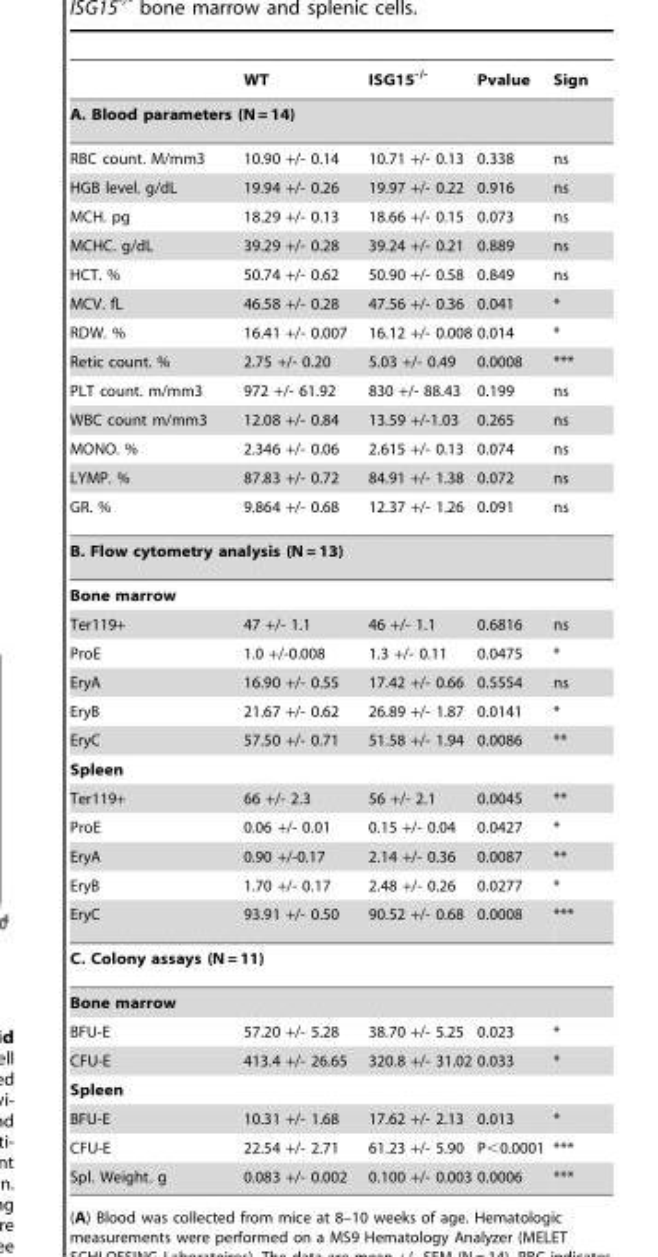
<table><thead><tr><td></td><td>WT</td><td>ISG15<sup>-/-</sup></td><td>Pvalue</td><td>Sign</td></tr></thead><tbody><tr><td colspan="5">A. Blood parameters (N = 14)</td></tr><tr><td>RBC count. M/mm3</td><td>10.90 +/- 0.14</td><td>10.71 +/- 0.13</td><td>0.338</td><td>ns</td></tr><tr><td>HGB level. g/dL</td><td>19.94 +/- 0.26</td><td>19.97 +/- 0.22</td><td>0.916</td><td>ns</td></tr><tr><td>MCH. pg</td><td>18.29 +/- 0.13</td><td>18.66 +/- 0.15</td><td>0.073</td><td>ns</td></tr><tr><td>MCHC. g/dL</td><td>39.29 +/- 0.28</td><td>39.24 +/- 0.21</td><td>0.889</td><td>ns</td></tr><tr><td>HCT. %</td><td>50.74 +/- 0.62</td><td>50.90 +/- 0.58</td><td>0.849</td><td>ns</td></tr><tr><td>MCV. fL</td><td>46.58 +/- 0.28</td><td>47.56 +/- 0.36</td><td>0.041</td><td>*</td></tr><tr><td>RDW. %</td><td>16.41 +/- 0.007</td><td>16.12 +/- 0.008</td><td>0.014</td><td>*</td></tr><tr><td>Retic count. %</td><td>2.75 +/- 0.20</td><td>5.03 +/- 0.49</td><td>0.0008</td><td>***</td></tr><tr><td>PLT count. m/mm3</td><td>972 +/- 61.92</td><td>830 +/- 88.43</td><td>0.199</td><td>ns</td></tr><tr><td>WBC count m/mm3</td><td>12.08 +/- 0.84</td><td>13.59 +/-1.03</td><td>0.265</td><td>ns</td></tr><tr><td>MONO. %</td><td>2.346 +/- 0.06</td><td>2.615 +/- 0.13</td><td>0.074</td><td>ns</td></tr><tr><td>LYMP. %</td><td>87.83 +/- 0.72</td><td>84.91 +/- 1.38</td><td>0.072</td><td>ns</td></tr><tr><td>GR. %</td><td>9.864 +/- 0.68</td><td>12.37 +/- 1.26</td><td>0.091</td><td>ns</td></tr><tr><td colspan="5">B. Flow cytometry analysis (N = 13)</td></tr><tr><td colspan="5">Bone marrow</td></tr><tr><td>Ter119+</td><td>47 +/- 1.1</td><td>46 +/- 1.1</td><td>0.6816</td><td>ns</td></tr><tr><td>ProE</td><td>1.0 +/-0.008</td><td>1.3 +/- 0.11</td><td>0.0475</td><td>*</td></tr><tr><td>EryA</td><td>16.90 +/- 0.55</td><td>17.42 +/- 0.66</td><td>0.5554</td><td>ns</td></tr><tr><td>EryB</td><td>21.67 +/- 0.62</td><td>26.89 +/- 1.87</td><td>0.0141</td><td>*</td></tr><tr><td>EryC</td><td>57.50 +/- 0.71</td><td>51.58 +/- 1.94</td><td>0.0086</td><td>**</td></tr><tr><td colspan="5">Spleen</td></tr><tr><td>Ter119+</td><td>66 +/- 2.3</td><td>56 +/- 2.1</td><td>0.0045</td><td>**</td></tr><tr><td>ProE</td><td>0.06 +/- 0.01</td><td>0.15 +/- 0.04</td><td>0.0427</td><td>*</td></tr><tr><td>EryA</td><td>0.90 +/-0.17</td><td>2.14 +/- 0.36</td><td>0.0087</td><td>**</td></tr><tr><td>EryB</td><td>1.70 +/- 0.17</td><td>2.48 +/- 0.26</td><td>0.0277</td><td>*</td></tr><tr><td>EryC</td><td>93.91 +/- 0.50</td><td>90.52 +/- 0.68</td><td>0.0008</td><td>***</td></tr><tr><td colspan="5">C. Colony assays (N = 11)</td></tr><tr><td colspan="5">Bone marrow</td></tr><tr><td>BFU-E</td><td>57.20 +/- 5.28</td><td>38.70 +/- 5.25</td><td>0.023</td><td>*</td></tr><tr><td>CFU-E</td><td>413.4 +/- 26.65</td><td>320.8 +/- 31.02</td><td>0.033</td><td>*</td></tr><tr><td colspan="5">Spleen</td></tr><tr><td>BFU-E</td><td>10.31 +/- 1.68</td><td>17.62 +/- 2.13</td><td>0.013</td><td>*</td></tr><tr><td>CFU-E</td><td>22.54 +/- 2.71</td><td>61.23 +/- 5.90</td><td>P&lt;0.0001</td><td>***</td></tr><tr><td>Spl. Weight. g</td><td>0.083 +/- 0.002</td><td>0.100 +/- 0.003</td><td>0.0006</td><td>***</td></tr></tbody></table>